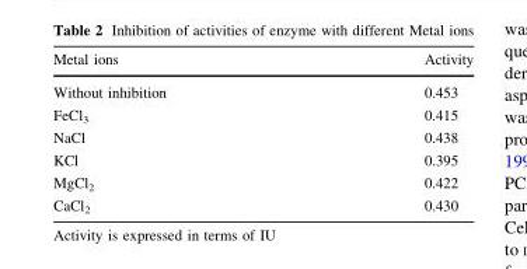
<table><thead><tr><td>Metal ions</td><td>Activity</td></tr></thead><tbody><tr><td>Without inhibition</td><td>0.453</td></tr><tr><td>FeCl<sub>3</sub></td><td>0.415</td></tr><tr><td>NaCl</td><td>0.438</td></tr><tr><td>KCl</td><td>0.395</td></tr><tr><td>MgCl<sub>2</sub></td><td>0.422</td></tr><tr><td>CaCl<sub>2</sub></td><td>0.430</td></tr></tbody></table>